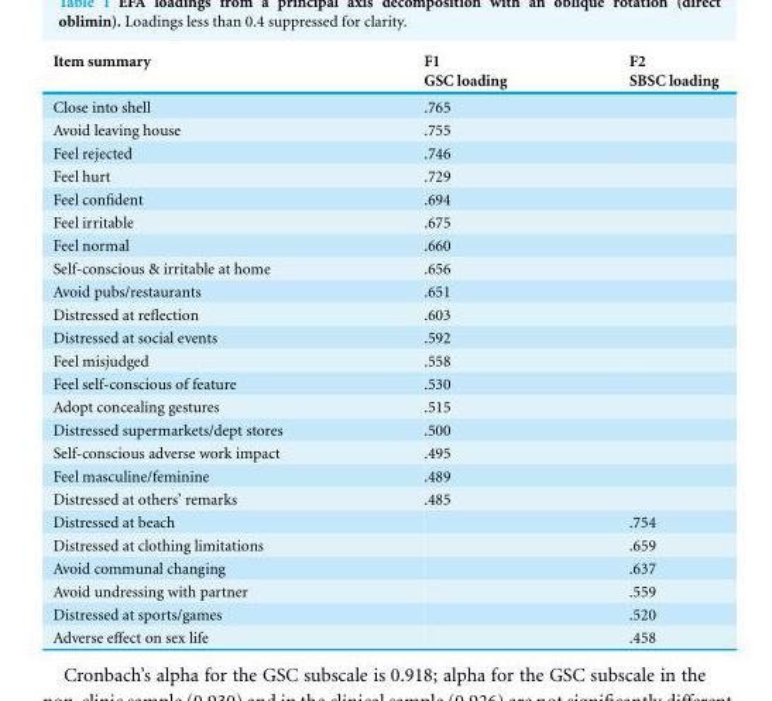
<table><thead><tr><td>Item summary</td><td>F1 GSC loading</td><td>F2 SBSC loading</td></tr></thead><tbody><tr><td>Close into shell</td><td>.765</td><td></td></tr><tr><td>Avoid leaving house</td><td>.755</td><td></td></tr><tr><td>Feel rejected</td><td>.746</td><td></td></tr><tr><td>Feel hurt</td><td>.729</td><td></td></tr><tr><td>Feel confident</td><td>.694</td><td></td></tr><tr><td>Feel irritable</td><td>.675</td><td></td></tr><tr><td>Feel normal</td><td>.660</td><td></td></tr><tr><td>Self-conscious &amp; irritable at home</td><td>.656</td><td></td></tr><tr><td>Avoid pubs/restaurants</td><td>.651</td><td></td></tr><tr><td>Distressed at reflection</td><td>.603</td><td></td></tr><tr><td>Distressed at social events</td><td>.592</td><td></td></tr><tr><td>Feel misjudged</td><td>.558</td><td></td></tr><tr><td>Feel self-conscious of feature</td><td>.530</td><td></td></tr><tr><td>Adopt concealing gestures</td><td>.515</td><td></td></tr><tr><td>Distressed supermarkets/dept stores</td><td>.500</td><td></td></tr><tr><td>Self-conscious adverse work impact</td><td>.495</td><td></td></tr><tr><td>Feel masculine/feminine</td><td>.489</td><td></td></tr><tr><td>Distressed at others’ remarks</td><td>.485</td><td></td></tr><tr><td>Distressed at beach</td><td></td><td>.754</td></tr><tr><td>Distressed at clothing limitations</td><td></td><td>.659</td></tr><tr><td>Avoid communal changing</td><td></td><td>.637</td></tr><tr><td>Avoid undressing with partner</td><td></td><td>.559</td></tr><tr><td>Distressed at sports/games</td><td></td><td>.520</td></tr><tr><td>Adverse effect on sex life</td><td></td><td>.458</td></tr></tbody></table>